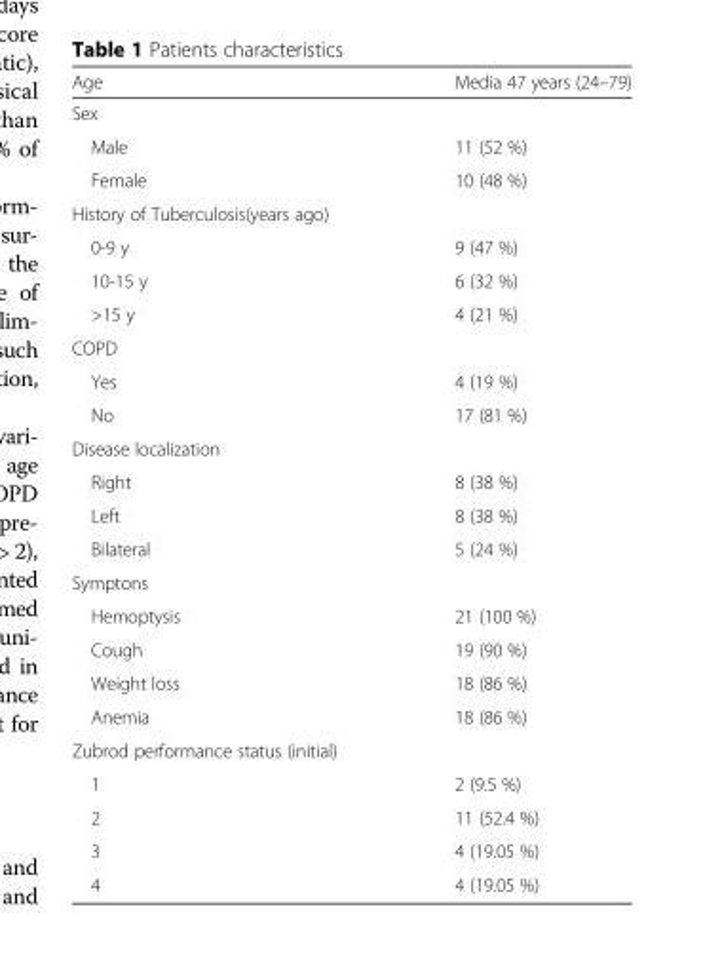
<table><thead><tr><td>Age</td><td>Media 47 years (24–79)</td></tr></thead><tbody><tr><td colspan="2">Sex</td></tr><tr><td>Male</td><td>11 (52 %)</td></tr><tr><td>Female</td><td>10 (48 %)</td></tr><tr><td colspan="2">History of Tuberculosis(years ago)</td></tr><tr><td>0-9 y</td><td>9 (47 %)</td></tr><tr><td>10-15 y</td><td>6 (32 %)</td></tr><tr><td>&gt;15 y</td><td>4 (21 %)</td></tr><tr><td colspan="2">COPD</td></tr><tr><td>Yes</td><td>4 (19 %)</td></tr><tr><td>No</td><td>17 (81 %)</td></tr><tr><td colspan="2">Disease localization</td></tr><tr><td>Right</td><td>8 (38 %)</td></tr><tr><td>Left</td><td>8 (38 %)</td></tr><tr><td>Bilateral</td><td>5 (24 %)</td></tr><tr><td colspan="2">Symptons</td></tr><tr><td>Hemoptysis</td><td>21 (100 %)</td></tr><tr><td>Cough</td><td>19 (90 %)</td></tr><tr><td>Weight loss</td><td>18 (86 %)</td></tr><tr><td>Anemia</td><td>18 (86 %)</td></tr><tr><td colspan="2">Zubrod performance status (initial)</td></tr><tr><td>1</td><td>2 (9.5 %)</td></tr><tr><td>2</td><td>11 (52.4 %)</td></tr><tr><td>3</td><td>4 (19.05 %)</td></tr><tr><td>4</td><td>4 (19.05 %)</td></tr></tbody></table>